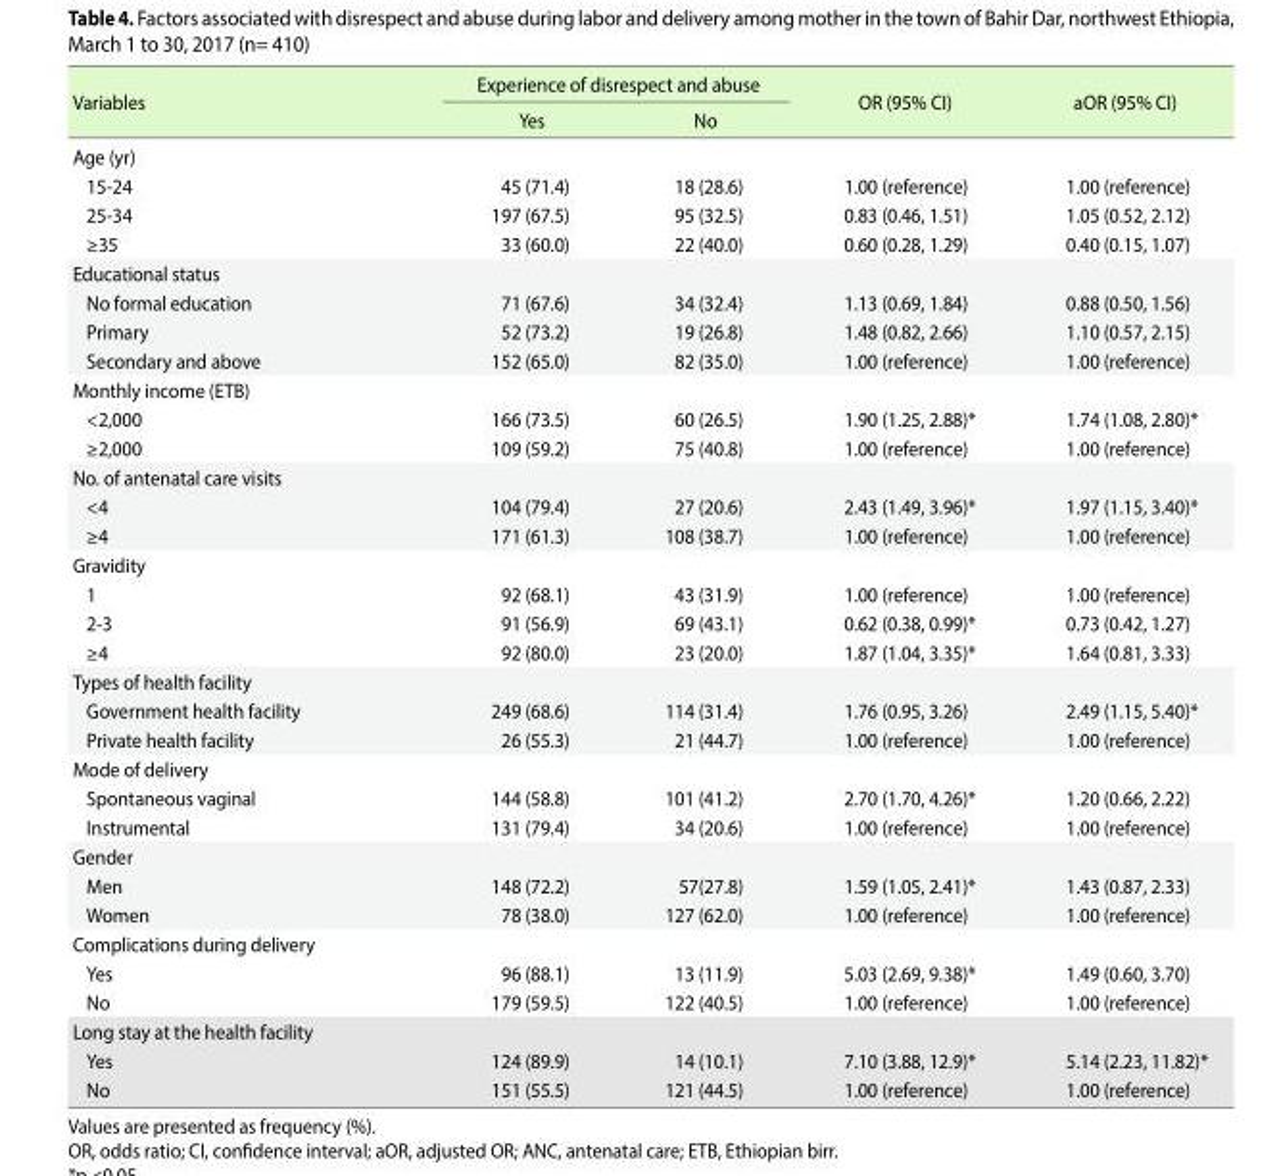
<table><thead><tr><td rowspan="2">Variables</td><td colspan="2">Experience of disrespect and abuse</td><td rowspan="2">OR (95% CI)</td><td rowspan="2">aOR (95% CI)</td></tr><tr><td>Yes</td><td>No</td></tr></thead><tbody><tr><td colspan="5">Age (yr)</td></tr><tr><td>15-24</td><td>45 (71.4)</td><td>18 (28.6)</td><td>1.00 (reference)</td><td>1.00 (reference)</td></tr><tr><td>25-34</td><td>197 (67.5)</td><td>95 (32.5)</td><td>0.83 (0.46, 1.51)</td><td>1.05 (0.52, 2.12)</td></tr><tr><td>≥35</td><td>33 (60.0)</td><td>22 (40.0)</td><td>0.60 (0.28, 1.29)</td><td>0.40 (0.15, 1.07)</td></tr><tr><td colspan="5">Educational status</td></tr><tr><td>No formal education</td><td>71 (67.6)</td><td>34 (32.4)</td><td>1.13 (0.69, 1.84)</td><td>0.88 (0.50, 1.56)</td></tr><tr><td>Primary</td><td>52 (73.2)</td><td>19 (26.8)</td><td>1.48 (0.82, 2.66)</td><td>1.10 (0.57, 2.15)</td></tr><tr><td>Secondary and above</td><td>152 (65.0)</td><td>82 (35.0)</td><td>1.00 (reference)</td><td>1.00 (reference)</td></tr><tr><td colspan="5">Monthly income (ETB)</td></tr><tr><td>&lt;2,000</td><td>166 (73.5)</td><td>60 (26.5)</td><td>1.90 (1.25, 2.88)*</td><td>1.74 (1.08, 2.80)*</td></tr><tr><td>≥2,000</td><td>109 (59.2)</td><td>75 (40.8)</td><td>1.00 (reference)</td><td>1.00 (reference)</td></tr><tr><td colspan="5">No. of antenatal care visits</td></tr><tr><td>&lt;4</td><td>104 (79.4)</td><td>27 (20.6)</td><td>2.43 (1.49, 3.96)*</td><td>1.97 (1.15, 3.40)*</td></tr><tr><td>≥4</td><td>171 (61.3)</td><td>108 (38.7)</td><td>1.00 (reference)</td><td>1.00 (reference)</td></tr><tr><td colspan="5">Gravidity</td></tr><tr><td>1</td><td>92 (68.1)</td><td>43 (31.9)</td><td>1.00 (reference)</td><td>1.00 (reference)</td></tr><tr><td>2-3</td><td>91 (56.9)</td><td>69 (43.1)</td><td>0.62 (0.38, 0.99)*</td><td>0.73 (0.42, 1.27)</td></tr><tr><td>≥4</td><td>92 (80.0)</td><td>23 (20.0)</td><td>1.87 (1.04, 3.35)*</td><td>1.64 (0.81, 3.33)</td></tr><tr><td colspan="5">Types of health facility</td></tr><tr><td>Government health facility</td><td>249 (68.6)</td><td>114 (31.4)</td><td>1.76 (0.95, 3.26)</td><td>2.49 (1.15, 5.40)*</td></tr><tr><td>Private health facility</td><td>26 (55.3)</td><td>21 (44.7)</td><td>1.00 (reference)</td><td>1.00 (reference)</td></tr><tr><td colspan="5">Mode of delivery</td></tr><tr><td>Spontaneous vaginal</td><td>144 (58.8)</td><td>101 (41.2)</td><td>2.70 (1.70, 4.26)*</td><td>1.20 (0.66, 2.22)</td></tr><tr><td>Instrumental</td><td>131 (79.4)</td><td>34 (20.6)</td><td>1.00 (reference)</td><td>1.00 (reference)</td></tr><tr><td colspan="5">Gender</td></tr><tr><td>Men</td><td>148 (72.2)</td><td>57(27.8)</td><td>1.59 (1.05, 2.41)*</td><td>1.43 (0.87, 2.33)</td></tr><tr><td>Women</td><td>78 (38.0)</td><td>127 (62.0)</td><td>1.00 (reference)</td><td>1.00 (reference)</td></tr><tr><td colspan="5">Complications during delivery</td></tr><tr><td>Yes</td><td>96 (88.1)</td><td>13 (11.9)</td><td>5.03 (2.69, 9.38)*</td><td>1.49 (0.60, 3.70)</td></tr><tr><td>No</td><td>179 (59.5)</td><td>122 (40.5)</td><td>1.00 (reference)</td><td>1.00 (reference)</td></tr><tr><td colspan="5">Long stay at the health facility</td></tr><tr><td>Yes</td><td>124 (89.9)</td><td>14 (10.1)</td><td>7.10 (3.88, 12.9)*</td><td>5.14 (2.23, 11.82)*</td></tr><tr><td>No</td><td>151 (55.5)</td><td>121 (44.5)</td><td>1.00 (reference)</td><td>1.00 (reference)</td></tr></tbody></table>